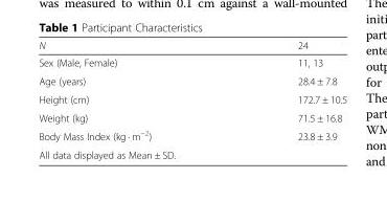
<table><thead><tr><td>N</td><td>24</td></tr></thead><tbody><tr><td>Sex (Male, Female)</td><td>11, 13</td></tr><tr><td>Age (years)</td><td>28.4 ± 7.8</td></tr><tr><td>Height (cm)</td><td>172.7 ± 10.5</td></tr><tr><td>Weight (kg)</td><td>71.5 ± 16.8</td></tr><tr><td>Body Mass Index (kg · m<sup>−2</sup>)</td><td>23.8 ± 3.9</td></tr><tr><td>All data displayed as Mean ± SD.</td><td></td></tr></tbody></table>